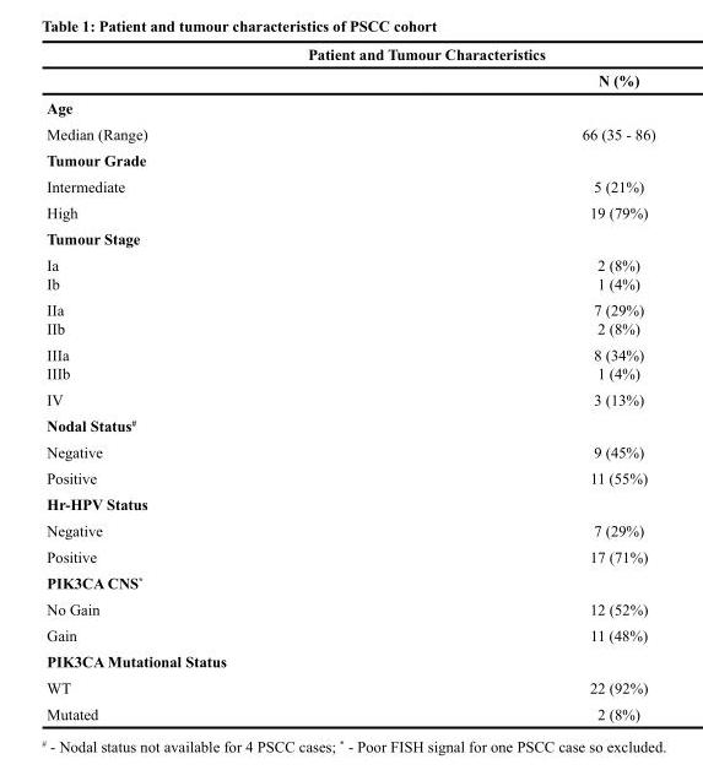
<table><thead><tr><td colspan="2">Patient and Tumour Characteristics</td></tr><tr><td></td><td>N (%)</td></tr></thead><tbody><tr><td colspan="2">Age</td></tr><tr><td>Median (Range)</td><td>66 (35 - 86)</td></tr><tr><td colspan="2">Tumour Grade</td></tr><tr><td>Intermediate</td><td>5 (21%)</td></tr><tr><td>High</td><td>19 (79%)</td></tr><tr><td colspan="2">Tumour Stage</td></tr><tr><td>Ia Ib</td><td>2 (8%) 1 (4%)</td></tr><tr><td>IIa IIb</td><td>7 (29%) 2 (8%)</td></tr><tr><td>IIIa IIIb</td><td>8 (34%) 1 (4%)</td></tr><tr><td>IV</td><td>3 (13%)</td></tr><tr><td colspan="2">Nodal Status<sup>#</sup></td></tr><tr><td>Negative</td><td>9 (45%)</td></tr><tr><td>Positive</td><td>11 (55%)</td></tr><tr><td colspan="2">Hr-HPV Status</td></tr><tr><td>Negative</td><td>7 (29%)</td></tr><tr><td>Positive</td><td>17 (71%)</td></tr><tr><td colspan="2">PIK3CA CNS*</td></tr><tr><td>No Gain</td><td>12 (52%)</td></tr><tr><td>Gain</td><td>11 (48%)</td></tr><tr><td colspan="2">PIK3CA Mutational Status</td></tr><tr><td>WT</td><td>22 (92%)</td></tr><tr><td>Mutated</td><td>2 (8%)</td></tr></tbody></table>